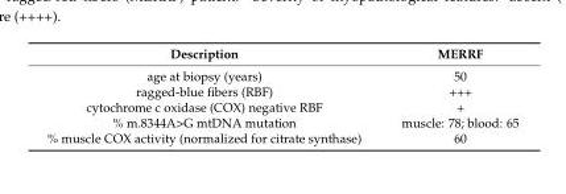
<table><thead><tr><td>Description</td><td>MERRF</td></tr></thead><tbody><tr><td>age at biopsy (years)</td><td>50</td></tr><tr><td>ragged-blue fibers (RBF)</td><td>+++</td></tr><tr><td>cytochrome c oxidase (COX) negative RBF</td><td>+</td></tr><tr><td>% m.8344A&gt;G mtDNA mutation</td><td>muscle: 78; blood: 65</td></tr><tr><td>% muscle COX activity (normalized for citrate synthase)</td><td>60</td></tr></tbody></table>